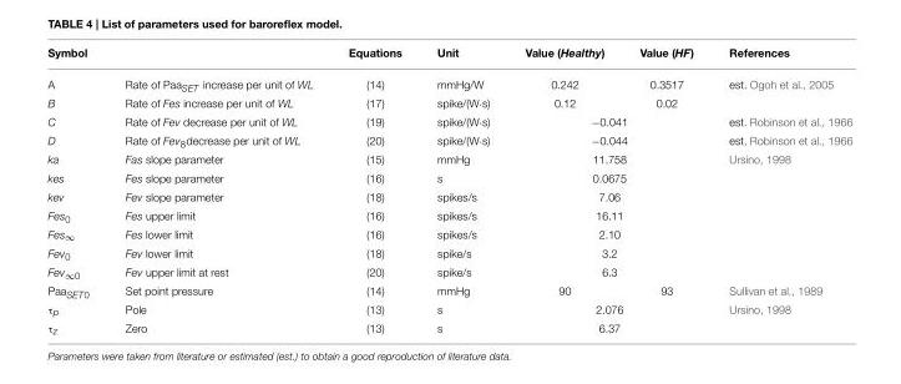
<table><thead><tr><td>Symbol</td><td></td><td>Equations</td><td>Unit</td><td>Value (Healthy)</td><td>Value (HF)</td><td>References</td></tr></thead><tbody><tr><td>A</td><td>Rate of Paa<sub>SET</sub> increase per unit of WL</td><td>(14)</td><td>mmHg/W</td><td>0.242</td><td>0.3517</td><td>est. Ogoh et al., 2005</td></tr><tr><td>B</td><td>Rate of Fes increase per unit of WL</td><td>(17)</td><td>spike/(W·s)</td><td>0.12</td><td>0.02</td><td></td></tr><tr><td>C</td><td>Rate of Fev decrease per unit of WL</td><td>(19)</td><td>spike/(W·s)</td><td colspan="2">−0.041</td><td>est. Robinson et al., 1966</td></tr><tr><td>D</td><td>Rate of Fev<sub>8</sub>decrease per unit of WL</td><td>(20)</td><td>spike/(W·s)</td><td colspan="2">−0.044</td><td>est. Robinson et al., 1966</td></tr><tr><td>ka</td><td>Fas slope parameter</td><td>(15)</td><td>mmHg</td><td colspan="2">11.758</td><td>Ursino, 1998</td></tr><tr><td>kes</td><td>Fes slope parameter</td><td>(16)</td><td>s</td><td colspan="2">0.0675</td><td></td></tr><tr><td>kev</td><td>Fev slope parameter</td><td>(18)</td><td>spikes/s</td><td colspan="2">7.06</td><td></td></tr><tr><td>Fes<sub>0</sub></td><td>Fes upper limit</td><td>(16)</td><td>spikes/s</td><td colspan="2">16.11</td><td></td></tr><tr><td>Fes<sub>∞</sub></td><td>Fes lower limit</td><td>(16)</td><td>spikes/s</td><td colspan="2">2.10</td><td></td></tr><tr><td>Fev<sub>0</sub></td><td>Fev lower limit</td><td>(18)</td><td>spike/s</td><td colspan="2">3.2</td><td></td></tr><tr><td>Fev<sub>∞0</sub></td><td>Fev upper limit at rest</td><td>(20)</td><td>spike/s</td><td colspan="2">6.3</td><td></td></tr><tr><td>Paa<sub>SET0</sub></td><td>Set point pressure</td><td>(14)</td><td>mmHg</td><td>90</td><td>93</td><td>Sullivan et al., 1989</td></tr><tr><td>τ<sub>p</sub></td><td>Pole</td><td>(13)</td><td>s</td><td colspan="2">2.076</td><td>Ursino, 1998</td></tr><tr><td>τ<sub>z</sub></td><td>Zero</td><td>(13)</td><td>s</td><td colspan="2">6.37</td><td></td></tr></tbody></table>